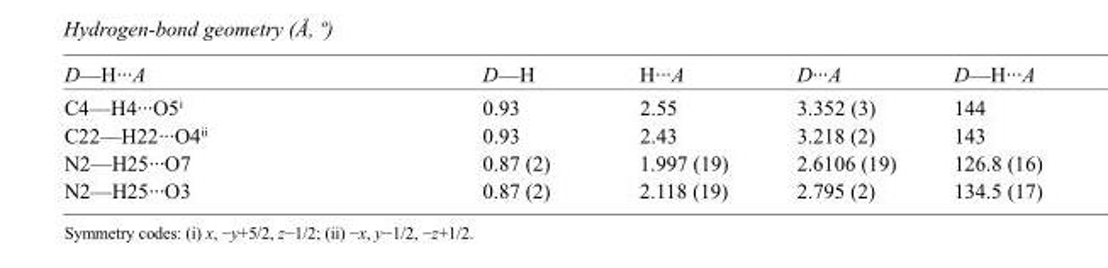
<table><tbody><tr><td>D—H···A</td><td>D—H</td><td>H···A</td><td>D···A</td><td>D—H···A</td></tr><tr><td>C4—H4···O5<sup>i</sup></td><td>0.93</td><td>2.55</td><td>3.352 (3)</td><td>144</td></tr><tr><td>C22—H22···O4<sup>ii</sup></td><td>0.93</td><td>2.43</td><td>3.218 (2)</td><td>143</td></tr><tr><td>N2—H25···O7</td><td>0.87 (2)</td><td>1.997 (19)</td><td>2.6106 (19)</td><td>126.8 (16)</td></tr><tr><td>N2—H25···O3</td><td>0.87 (2)</td><td>2.118 (19)</td><td>2.795 (2)</td><td>134.5 (17)</td></tr></tbody></table>